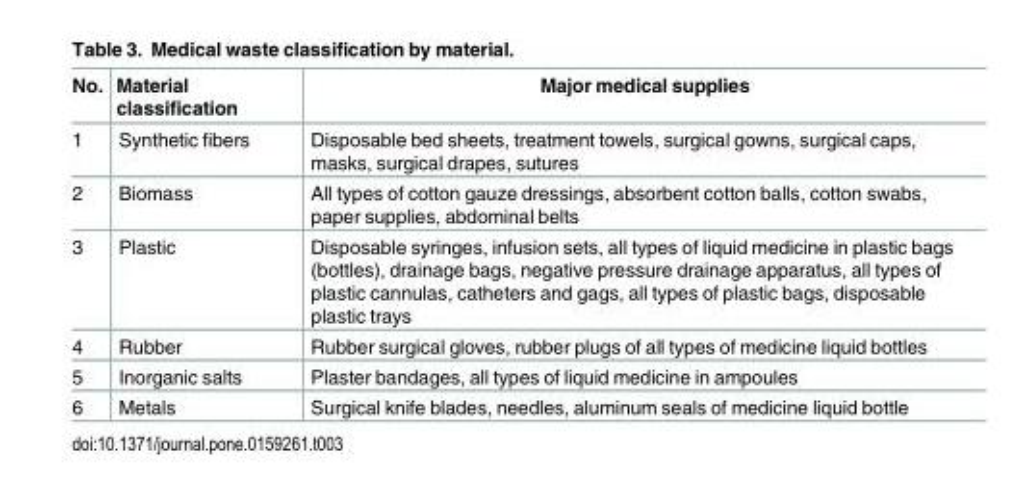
<table><thead><tr><td>No.</td><td>Material classification</td><td>Major medical supplies</td></tr></thead><tbody><tr><td>1</td><td>Synthetic fibers</td><td>Disposable bed sheets, treatment towels, surgical gowns, surgical caps, masks, surgical drapes, sutures</td></tr><tr><td>2</td><td>Biomass</td><td>All types of cotton gauze dressings, absorbent cotton balls, cotton swabs, paper supplies, abdominal belts</td></tr><tr><td>3</td><td>Plastic</td><td>Disposable syringes, infusion sets, all types of liquid medicine in plastic bags (bottles), drainage bags, negative pressure drainage apparatus, all types of plastic cannulas, catheters and gags, all types of plastic bags, disposable plastic trays</td></tr><tr><td>4</td><td>Rubber</td><td>Rubber surgical gloves, rubber plugs of all types of medicine liquid bottles</td></tr><tr><td>5</td><td>Inorganic salts</td><td>Plaster bandages, all types of liquid medicine in ampoules</td></tr><tr><td>6</td><td>Metals</td><td>Surgical knife blades, needles, aluminum seals of medicine liquid bottle</td></tr></tbody></table>